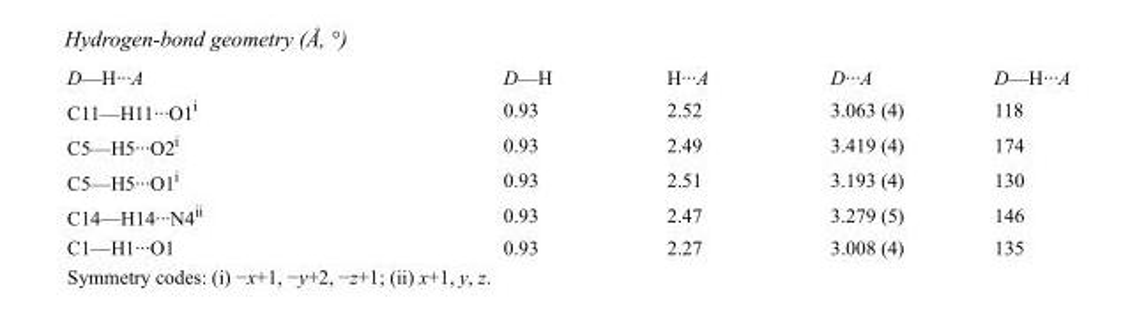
<table><tbody><tr><td>D—H···A</td><td>D—H</td><td>H···A</td><td>D···A</td><td>D—H···A</td></tr><tr><td>C11—H11···O1<sup>i</sup></td><td>0.93</td><td>2.52</td><td>3.063 (4)</td><td>118</td></tr><tr><td>C5—H5···O2<sup>i</sup></td><td>0.93</td><td>2.49</td><td>3.419 (4)</td><td>174</td></tr><tr><td>C5—H5···O1<sup>i</sup></td><td>0.93</td><td>2.51</td><td>3.193 (4)</td><td>130</td></tr><tr><td>C14—H14···N4<sup>ii</sup></td><td>0.93</td><td>2.47</td><td>3.279 (5)</td><td>146</td></tr><tr><td>C1—H1···O1</td><td>0.93</td><td>2.27</td><td>3.008 (4)</td><td>135</td></tr></tbody></table>